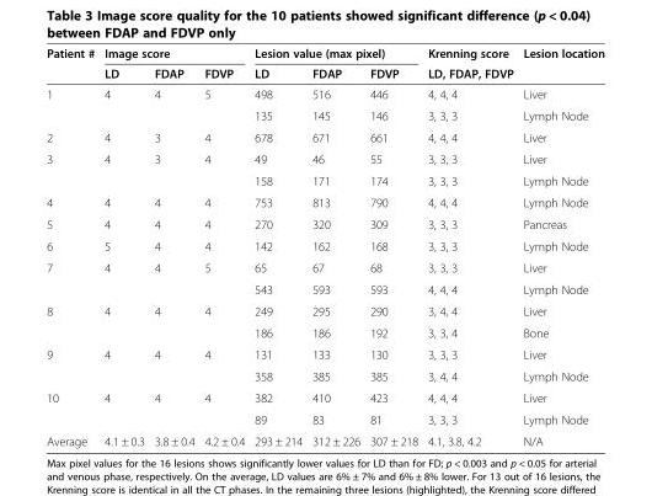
<table><thead><tr><td rowspan="2">Patient #</td><td colspan="3">Image score</td><td colspan="3">Lesion value (max pixel)</td><td rowspan="2">Krenning score LD, FDAP, FDVP</td><td rowspan="2">Lesion location</td></tr><tr><td>LD</td><td>FDAP</td><td>FDVP</td><td>LD</td><td>FDAP</td><td>FDVP</td></tr></thead><tbody><tr><td rowspan="2">1</td><td>4</td><td>4</td><td>5</td><td>498</td><td>516</td><td>446</td><td>4, 4, 4</td><td>Liver</td></tr><tr><td></td><td></td><td></td><td>135</td><td>145</td><td>146</td><td>3, 3, 3</td><td>Lymph Node</td></tr><tr><td>2</td><td>4</td><td>3</td><td>4</td><td>678</td><td>671</td><td>661</td><td>4, 4, 4</td><td>Liver</td></tr><tr><td rowspan="2">3</td><td>4</td><td>3</td><td>4</td><td>49</td><td>46</td><td>55</td><td>3, 3, 3</td><td>Liver</td></tr><tr><td></td><td></td><td></td><td>158</td><td>171</td><td>174</td><td>3, 3, 3</td><td>Lymph Node</td></tr><tr><td>4</td><td>4</td><td>4</td><td>4</td><td>753</td><td>813</td><td>790</td><td>4, 4, 4</td><td>Lymph Node</td></tr><tr><td>5</td><td>4</td><td>4</td><td>4</td><td>270</td><td>320</td><td>309</td><td>3, 3, 3</td><td>Pancreas</td></tr><tr><td>6</td><td>5</td><td>4</td><td>4</td><td>142</td><td>162</td><td>168</td><td>3, 3, 3</td><td>Lymph Node</td></tr><tr><td rowspan="2">7</td><td>4</td><td>4</td><td>5</td><td>65</td><td>67</td><td>68</td><td>3, 3, 3</td><td>Liver</td></tr><tr><td></td><td></td><td></td><td>543</td><td>593</td><td>593</td><td>4, 4, 4</td><td>Lymph Node</td></tr><tr><td rowspan="2">8</td><td>4</td><td>4</td><td>4</td><td>249</td><td>295</td><td>290</td><td>3, 4, 4</td><td>Liver</td></tr><tr><td></td><td></td><td></td><td>186</td><td>186</td><td>192</td><td>3, 3, 4</td><td>Bone</td></tr><tr><td rowspan="2">9</td><td>4</td><td>4</td><td>4</td><td>131</td><td>133</td><td>130</td><td>3, 3, 3</td><td>Liver</td></tr><tr><td></td><td></td><td></td><td>358</td><td>385</td><td>385</td><td>3, 4, 4</td><td>Lymph Node</td></tr><tr><td rowspan="2">10</td><td>4</td><td>4</td><td>4</td><td>382</td><td>410</td><td>423</td><td>4, 4, 4</td><td>Liver</td></tr><tr><td></td><td></td><td></td><td>89</td><td>83</td><td>81</td><td>3, 3, 3</td><td>Lymph Node</td></tr><tr><td>Average</td><td>4.1 ± 0.3</td><td>3.8 ± 0.4</td><td>4.2 ± 0.4</td><td>293 ± 214</td><td>312 ± 226</td><td>307 ± 218</td><td>4.1, 3.8, 4.2</td><td>N/A</td></tr></tbody></table>